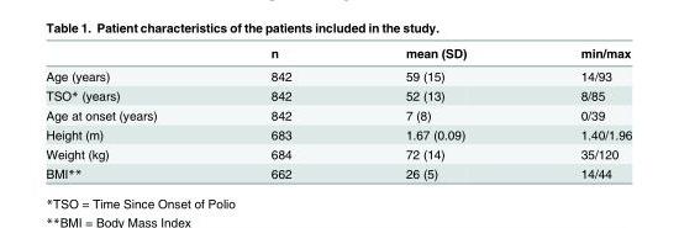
<table><thead><tr><td></td><td>n</td><td>mean (SD)</td><td>min/max</td></tr></thead><tbody><tr><td>Age (years)</td><td>842</td><td>59 (15)</td><td>14/93</td></tr><tr><td>TSO* (years)</td><td>842</td><td>52 (13)</td><td>8/85</td></tr><tr><td>Age at onset (years)</td><td>842</td><td>7 (8)</td><td>0/39</td></tr><tr><td>Height (m)</td><td>683</td><td>1.67 (0.09)</td><td>1.40/1.96</td></tr><tr><td>Weight (kg)</td><td>684</td><td>72 (14)</td><td>35/120</td></tr><tr><td>BMI**</td><td>662</td><td>26 (5)</td><td>14/44</td></tr></tbody></table>